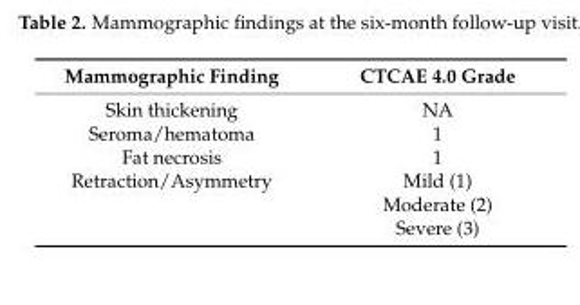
<table><thead><tr><td>Mammographic Finding</td><td>CTCAE 4.0 Grade</td></tr></thead><tbody><tr><td>Skin thickening</td><td>NA</td></tr><tr><td>Seroma/hematoma</td><td>1</td></tr><tr><td>Fat necrosis</td><td>1</td></tr><tr><td rowspan="3">Retraction/Asymmetry</td><td>Mild (1)</td></tr><tr><td>Moderate (2)</td></tr><tr><td>Severe (3)</td></tr></tbody></table>